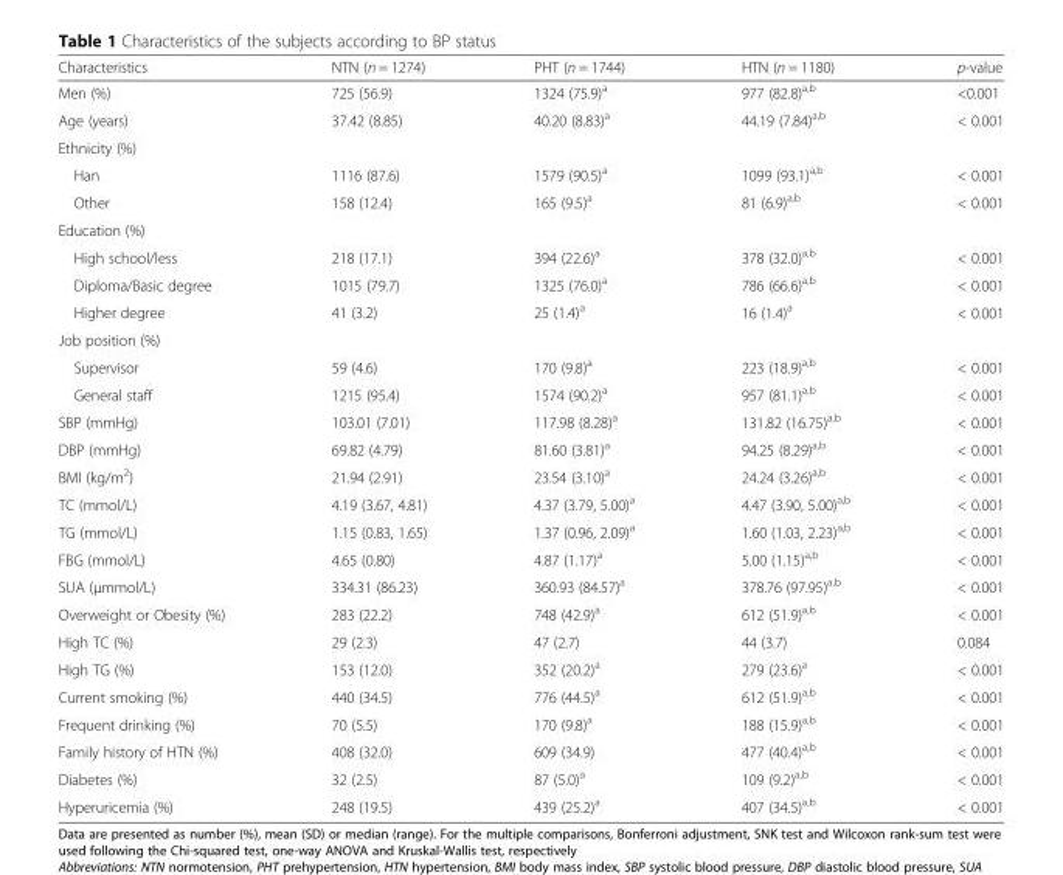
<table><thead><tr><td>Characteristics</td><td>NTN (n = 1274)</td><td>PHT (n = 1744)</td><td>HTN (n = 1180)</td><td>p-value</td></tr></thead><tbody><tr><td>Men (%)</td><td>725 (56.9)</td><td>1324 (75.9)<sup>a</sup></td><td>977 (82.8)<sup>a,b</sup></td><td>&lt;0.001</td></tr><tr><td>Age (years)</td><td>37.42 (8.85)</td><td>40.20 (8.83)<sup>a</sup></td><td>44.19 (7.84)<sup>a,b</sup></td><td>&lt; 0.001</td></tr><tr><td colspan="5">Ethnicity (%)</td></tr><tr><td>Han</td><td>1116 (87.6)</td><td>1579 (90.5)<sup>a</sup></td><td>1099 (93.1)<sup>a,b</sup></td><td>&lt; 0.001</td></tr><tr><td>Other</td><td>158 (12.4)</td><td>165 (9.5)<sup>a</sup></td><td>81 (6.9)<sup>a,b</sup></td><td>&lt; 0.001</td></tr><tr><td colspan="5">Education (%)</td></tr><tr><td>High school/less</td><td>218 (17.1)</td><td>394 (22.6)<sup>a</sup></td><td>378 (32.0)<sup>a,b</sup></td><td>&lt; 0.001</td></tr><tr><td>Diploma/Basic degree</td><td>1015 (79.7)</td><td>1325 (76.0)<sup>a</sup></td><td>786 (66.6)<sup>a,b</sup></td><td>&lt; 0.001</td></tr><tr><td>Higher degree</td><td>41 (3.2)</td><td>25 (1.4)<sup>a</sup></td><td>16 (1.4)<sup>a</sup></td><td>&lt; 0.001</td></tr><tr><td colspan="5">Job position (%)</td></tr><tr><td>Supervisor</td><td>59 (4.6)</td><td>170 (9.8)<sup>a</sup></td><td>223 (18.9)<sup>a,b</sup></td><td>&lt; 0.001</td></tr><tr><td>General staff</td><td>1215 (95.4)</td><td>1574 (90.2)<sup>a</sup></td><td>957 (81.1)<sup>a,b</sup></td><td>&lt; 0.001</td></tr><tr><td>SBP (mmHg)</td><td>103.01 (7.01)</td><td>117.98 (8.28)<sup>a</sup></td><td>131.82 (16.75)<sup>a,b</sup></td><td>&lt; 0.001</td></tr><tr><td>DBP (mmHg)</td><td>69.82 (4.79)</td><td>81.60 (3.81)<sup>a</sup></td><td>94.25 (8.29)<sup>a,b</sup></td><td>&lt; 0.001</td></tr><tr><td>BMI (kg/m<sup>2</sup>)</td><td>21.94 (2.91)</td><td>23.54 (3.10)<sup>a</sup></td><td>24.24 (3.26)<sup>a,b</sup></td><td>&lt; 0.001</td></tr><tr><td>TC (mmol/L)</td><td>4.19 (3.67, 4.81)</td><td>4.37 (3.79, 5.00)<sup>a</sup></td><td>4.47 (3.90, 5.00)<sup>a,b</sup></td><td>&lt; 0.001</td></tr><tr><td>TG (mmol/L)</td><td>1.15 (0.83, 1.65)</td><td>1.37 (0.96, 2.09)<sup>a</sup></td><td>1.60 (1.03, 2.23)<sup>a,b</sup></td><td>&lt; 0.001</td></tr><tr><td>FBG (mmol/L)</td><td>4.65 (0.80)</td><td>4.87 (1.17)<sup>a</sup></td><td>5.00 (1.15)<sup>a,b</sup></td><td>&lt; 0.001</td></tr><tr><td>SUA (μmmol/L)</td><td>334.31 (86.23)</td><td>360.93 (84.57)<sup>a</sup></td><td>378.76 (97.95)<sup>a,b</sup></td><td>&lt; 0.001</td></tr><tr><td>Overweight or Obesity (%)</td><td>283 (22.2)</td><td>748 (42.9)<sup>a</sup></td><td>612 (51.9)<sup>a,b</sup></td><td>&lt; 0.001</td></tr><tr><td>High TC (%)</td><td>29 (2.3)</td><td>47 (2.7)</td><td>44 (3.7)</td><td>0.084</td></tr><tr><td>High TG (%)</td><td>153 (12.0)</td><td>352 (20.2)<sup>a</sup></td><td>279 (23.6)<sup>a</sup></td><td>&lt; 0.001</td></tr><tr><td>Current smoking (%)</td><td>440 (34.5)</td><td>776 (44.5)<sup>a</sup></td><td>612 (51.9)<sup>a,b</sup></td><td>&lt; 0.001</td></tr><tr><td>Frequent drinking (%)</td><td>70 (5.5)</td><td>170 (9.8)<sup>a</sup></td><td>188 (15.9)<sup>a,b</sup></td><td>&lt; 0.001</td></tr><tr><td>Family history of HTN (%)</td><td>408 (32.0)</td><td>609 (34.9)</td><td>477 (40.4)<sup>a,b</sup></td><td>&lt; 0.001</td></tr><tr><td>Diabetes (%)</td><td>32 (2.5)</td><td>87 (5.0)<sup>a</sup></td><td>109 (9.2)<sup>a,b</sup></td><td>&lt; 0.001</td></tr><tr><td>Hyperuricemia (%)</td><td>248 (19.5)</td><td>439 (25.2)<sup>a</sup></td><td>407 (34.5)<sup>a,b</sup></td><td>&lt; 0.001</td></tr></tbody></table>